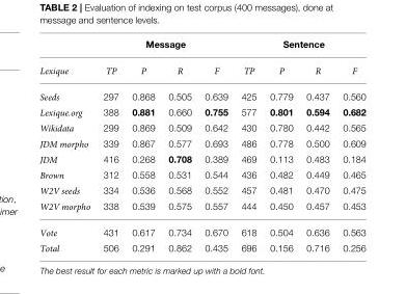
<table><thead><tr><td rowspan="2">Lexique</td><td colspan="4">Message</td><td colspan="4">Sentence</td></tr><tr><td>TP</td><td>P</td><td>R</td><td>F</td><td>TP</td><td>P</td><td>R</td><td>F</td></tr></thead><tbody><tr><td>Seeds</td><td>297</td><td>0.868</td><td>0.505</td><td>0.639</td><td>425</td><td>0.779</td><td>0.437</td><td>0.560</td></tr><tr><td>Lexique.org</td><td>388</td><td>0.881</td><td>0.660</td><td>0.755</td><td>577</td><td>0.801</td><td>0.594</td><td>0.682</td></tr><tr><td>Wikidata</td><td>299</td><td>0.869</td><td>0.509</td><td>0.642</td><td>430</td><td>0.780</td><td>0.442</td><td>0.565</td></tr><tr><td>JDM morpho</td><td>339</td><td>0.867</td><td>0.577</td><td>0.693</td><td>486</td><td>0.778</td><td>0.500</td><td>0.609</td></tr><tr><td>JDM</td><td>416</td><td>0.268</td><td>0.708</td><td>0.389</td><td>469</td><td>0.113</td><td>0.483</td><td>0.184</td></tr><tr><td>Brown</td><td>312</td><td>0.558</td><td>0.531</td><td>0.544</td><td>436</td><td>0.482</td><td>0.449</td><td>0.465</td></tr><tr><td>W2V seeds</td><td>334</td><td>0.536</td><td>0.568</td><td>0.552</td><td>457</td><td>0.481</td><td>0.470</td><td>0.475</td></tr><tr><td>W2V morpho</td><td>338</td><td>0.539</td><td>0.575</td><td>0.557</td><td>444</td><td>0.450</td><td>0.457</td><td>0.453</td></tr><tr><td>Vote</td><td>431</td><td>0.617</td><td>0.734</td><td>0.670</td><td>618</td><td>0.504</td><td>0.636</td><td>0.563</td></tr><tr><td>Total</td><td>506</td><td>0.291</td><td>0.862</td><td>0.435</td><td>696</td><td>0.156</td><td>0.716</td><td>0.256</td></tr></tbody></table>